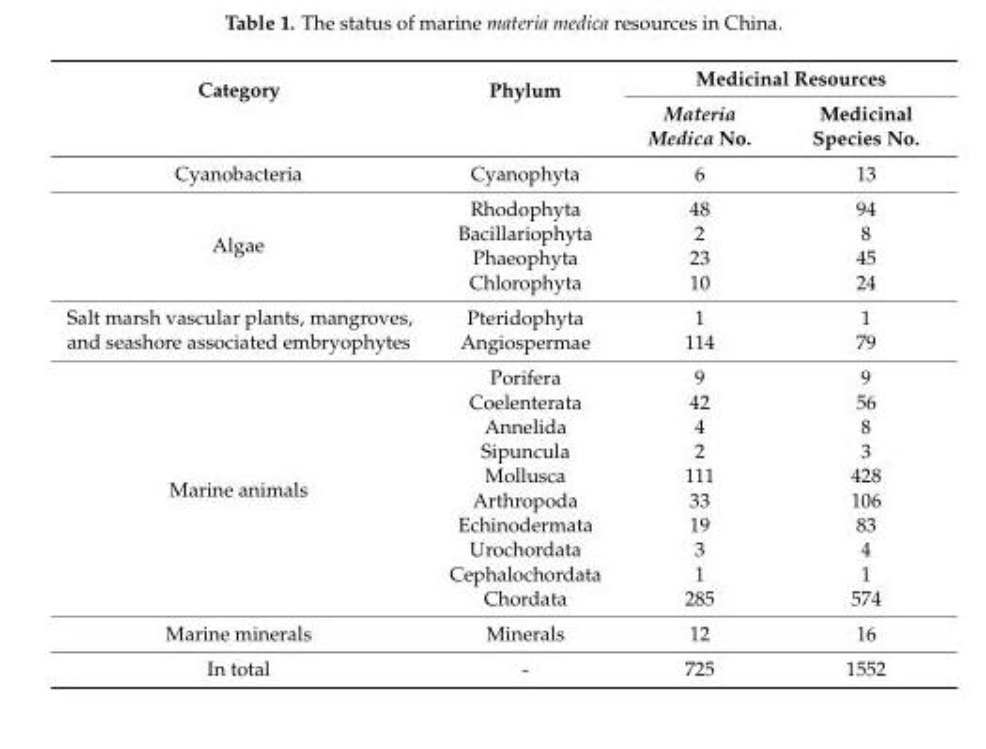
<table><thead><tr><td rowspan="2">Category</td><td rowspan="2">Phylum</td><td colspan="2">Medicinal Resources</td></tr><tr><td>Materia Medica No.</td><td>Medicinal Species No.</td></tr></thead><tbody><tr><td>Cyanobacteria</td><td>Cyanophyta</td><td>6</td><td>13</td></tr><tr><td rowspan="4">Algae</td><td>Rhodophyta</td><td>48</td><td>94</td></tr><tr><td>Bacillariophyta</td><td>2</td><td>8</td></tr><tr><td>Phaeophyta</td><td>23</td><td>45</td></tr><tr><td>Chlorophyta</td><td>10</td><td>24</td></tr><tr><td rowspan="2">Salt marsh vascular plants, mangroves, and seashore associated embryophytes</td><td>Pteridophyta</td><td>1</td><td>1</td></tr><tr><td>Angiospermae</td><td>114</td><td>79</td></tr><tr><td rowspan="10">Marine animals</td><td>Porifera</td><td>9</td><td>9</td></tr><tr><td>Coelenterata</td><td>42</td><td>56</td></tr><tr><td>Annelida</td><td>4</td><td>8</td></tr><tr><td>Sipuncula</td><td>2</td><td>3</td></tr><tr><td>Mollusca</td><td>111</td><td>428</td></tr><tr><td>Arthropoda</td><td>33</td><td>106</td></tr><tr><td>Echinodermata</td><td>19</td><td>83</td></tr><tr><td>Urochordata</td><td>3</td><td>4</td></tr><tr><td>Cephalochordata</td><td>1</td><td>1</td></tr><tr><td>Chordata</td><td>285</td><td>574</td></tr><tr><td>Marine minerals</td><td>Minerals</td><td>12</td><td>16</td></tr><tr><td>In total</td><td>-</td><td>725</td><td>1552</td></tr></tbody></table>